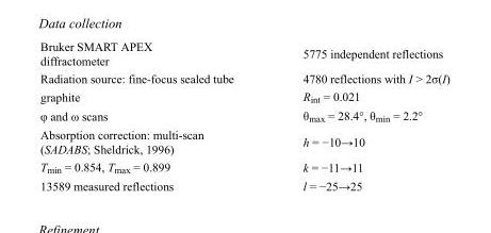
<table><tbody><tr><td>Bruker SMART APEX diffractometer</td><td>5775 independent reflections</td></tr><tr><td>Radiation source: fine-focus sealed tube</td><td>4780 reflections with I &gt; 2σ(I)</td></tr><tr><td>graphite</td><td>R<sub>int</sub> = 0.021</td></tr><tr><td>φ and ω scans</td><td>θ<sub>max</sub> = 28.4°, θ<sub>min</sub> = 2.2°</td></tr><tr><td>Absorption correction: multi-scan (SADABS; Sheldrick, 1996)</td><td>h = −10→10</td></tr><tr><td>T<sub>min</sub> = 0.854, T<sub>max</sub> = 0.899</td><td>k = −11→11</td></tr><tr><td>13589 measured reflections</td><td>l = −25→25</td></tr></tbody></table>